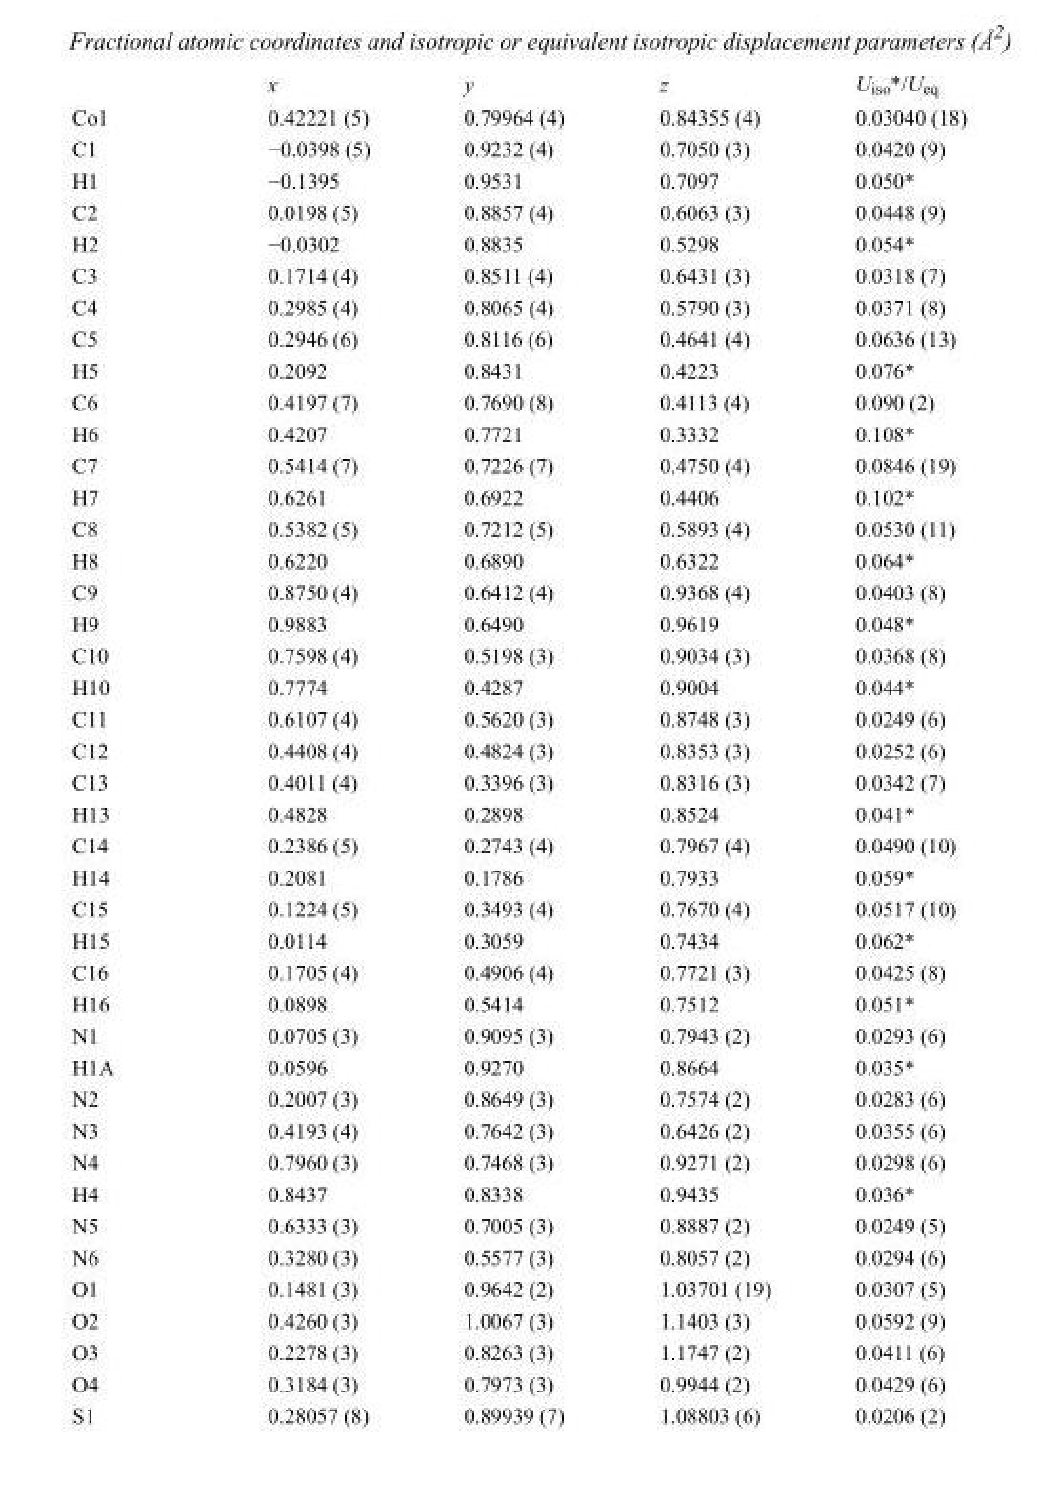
<table><thead><tr><td></td><td>x</td><td>y</td><td>z</td><td>U<sub>iso</sub>*/U<sub>eq</sub></td></tr></thead><tbody><tr><td>Co1</td><td>0.42221 (5)</td><td>0.79964 (4)</td><td>0.84355 (4)</td><td>0.03040 (18)</td></tr><tr><td>C1</td><td>−0.0398 (5)</td><td>0.9232 (4)</td><td>0.7050 (3)</td><td>0.0420 (9)</td></tr><tr><td>H1</td><td>−0.1395</td><td>0.9531</td><td>0.7097</td><td>0.050*</td></tr><tr><td>C2</td><td>0.0198 (5)</td><td>0.8857 (4)</td><td>0.6063 (3)</td><td>0.0448 (9)</td></tr><tr><td>H2</td><td>−0.0302</td><td>0.8835</td><td>0.5298</td><td>0.054*</td></tr><tr><td>C3</td><td>0.1714 (4)</td><td>0.8511 (4)</td><td>0.6431 (3)</td><td>0.0318 (7)</td></tr><tr><td>C4</td><td>0.2985 (4)</td><td>0.8065 (4)</td><td>0.5790 (3)</td><td>0.0371 (8)</td></tr><tr><td>C5</td><td>0.2946 (6)</td><td>0.8116 (6)</td><td>0.4641 (4)</td><td>0.0636 (13)</td></tr><tr><td>H5</td><td>0.2092</td><td>0.8431</td><td>0.4223</td><td>0.076*</td></tr><tr><td>C6</td><td>0.4197 (7)</td><td>0.7690 (8)</td><td>0.4113 (4)</td><td>0.090 (2)</td></tr><tr><td>H6</td><td>0.4207</td><td>0.7721</td><td>0.3332</td><td>0.108*</td></tr><tr><td>C7</td><td>0.5414 (7)</td><td>0.7226 (7)</td><td>0.4750 (4)</td><td>0.0846 (19)</td></tr><tr><td>H7</td><td>0.6261</td><td>0.6922</td><td>0.4406</td><td>0.102*</td></tr><tr><td>C8</td><td>0.5382 (5)</td><td>0.7212 (5)</td><td>0.5893 (4)</td><td>0.0530 (11)</td></tr><tr><td>H8</td><td>0.6220</td><td>0.6890</td><td>0.6322</td><td>0.064*</td></tr><tr><td>C9</td><td>0.8750 (4)</td><td>0.6412 (4)</td><td>0.9368 (4)</td><td>0.0403 (8)</td></tr><tr><td>H9</td><td>0.9883</td><td>0.6490</td><td>0.9619</td><td>0.048*</td></tr><tr><td>C10</td><td>0.7598 (4)</td><td>0.5198 (3)</td><td>0.9034 (3)</td><td>0.0368 (8)</td></tr><tr><td>H10</td><td>0.7774</td><td>0.4287</td><td>0.9004</td><td>0.044*</td></tr><tr><td>C11</td><td>0.6107 (4)</td><td>0.5620 (3)</td><td>0.8748 (3)</td><td>0.0249 (6)</td></tr><tr><td>C12</td><td>0.4408 (4)</td><td>0.4824 (3)</td><td>0.8353 (3)</td><td>0.0252 (6)</td></tr><tr><td>C13</td><td>0.4011 (4)</td><td>0.3396 (3)</td><td>0.8316 (3)</td><td>0.0342 (7)</td></tr><tr><td>H13</td><td>0.4828</td><td>0.2898</td><td>0.8524</td><td>0.041*</td></tr><tr><td>C14</td><td>0.2386 (5)</td><td>0.2743 (4)</td><td>0.7967 (4)</td><td>0.0490 (10)</td></tr><tr><td>H14</td><td>0.2081</td><td>0.1786</td><td>0.7933</td><td>0.059*</td></tr><tr><td>C15</td><td>0.1224 (5)</td><td>0.3493 (4)</td><td>0.7670 (4)</td><td>0.0517 (10)</td></tr><tr><td>H15</td><td>0.0114</td><td>0.3059</td><td>0.7434</td><td>0.062*</td></tr><tr><td>C16</td><td>0.1705 (4)</td><td>0.4906 (4)</td><td>0.7721 (3)</td><td>0.0425 (8)</td></tr><tr><td>H16</td><td>0.0898</td><td>0.5414</td><td>0.7512</td><td>0.051*</td></tr><tr><td>N1</td><td>0.0705 (3)</td><td>0.9095 (3)</td><td>0.7943 (2)</td><td>0.0293 (6)</td></tr><tr><td>H1A</td><td>0.0596</td><td>0.9270</td><td>0.8664</td><td>0.035*</td></tr><tr><td>N2</td><td>0.2007 (3)</td><td>0.8649 (3)</td><td>0.7574 (2)</td><td>0.0283 (6)</td></tr><tr><td>N3</td><td>0.4193 (4)</td><td>0.7642 (3)</td><td>0.6426 (2)</td><td>0.0355 (6)</td></tr><tr><td>N4</td><td>0.7960 (3)</td><td>0.7468 (3)</td><td>0.9271 (2)</td><td>0.0298 (6)</td></tr><tr><td>H4</td><td>0.8437</td><td>0.8338</td><td>0.9435</td><td>0.036*</td></tr><tr><td>N5</td><td>0.6333 (3)</td><td>0.7005 (3)</td><td>0.8887 (2)</td><td>0.0249 (5)</td></tr><tr><td>N6</td><td>0.3280 (3)</td><td>0.5577 (3)</td><td>0.8057 (2)</td><td>0.0294 (6)</td></tr><tr><td>O1</td><td>0.1481 (3)</td><td>0.9642 (2)</td><td>1.03701 (19)</td><td>0.0307 (5)</td></tr><tr><td>O2</td><td>0.4260 (3)</td><td>1.0067 (3)</td><td>1.1403 (3)</td><td>0.0592 (9)</td></tr><tr><td>O3</td><td>0.2278 (3)</td><td>0.8263 (3)</td><td>1.1747 (2)</td><td>0.0411 (6)</td></tr><tr><td>O4</td><td>0.3184 (3)</td><td>0.7973 (3)</td><td>0.9944 (2)</td><td>0.0429 (6)</td></tr><tr><td>S1</td><td>0.28057 (8)</td><td>0.89939 (7)</td><td>1.08803 (6)</td><td>0.0206 (2)</td></tr></tbody></table>